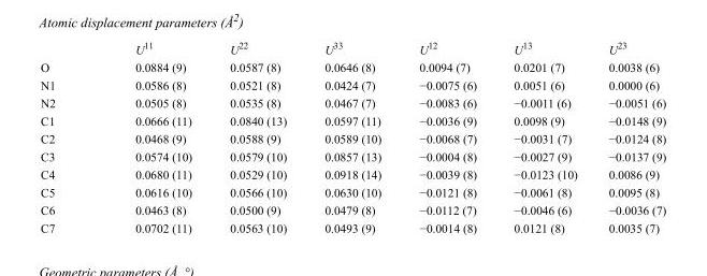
<table><thead><tr><td></td><td>U<sup>11</sup></td><td>U<sup>22</sup></td><td>U<sup>33</sup></td><td>U<sup>12</sup></td><td>U<sup>13</sup></td><td>U<sup>23</sup></td></tr></thead><tbody><tr><td>O</td><td>0.0884 (9)</td><td>0.0587 (8)</td><td>0.0646 (8)</td><td>0.0094 (7)</td><td>0.0201 (7)</td><td>0.0038 (6)</td></tr><tr><td>N1</td><td>0.0586 (8)</td><td>0.0521 (8)</td><td>0.0424 (7)</td><td>−0.0075 (6)</td><td>0.0051 (6)</td><td>0.0000 (6)</td></tr><tr><td>N2</td><td>0.0505 (8)</td><td>0.0535 (8)</td><td>0.0467 (7)</td><td>−0.0083 (6)</td><td>−0.0011 (6)</td><td>−0.0051 (6)</td></tr><tr><td>C1</td><td>0.0666 (11)</td><td>0.0840 (13)</td><td>0.0597 (11)</td><td>−0.0036 (9)</td><td>0.0098 (9)</td><td>−0.0148 (9)</td></tr><tr><td>C2</td><td>0.0468 (9)</td><td>0.0588 (9)</td><td>0.0589 (10)</td><td>−0.0068 (7)</td><td>−0.0031 (7)</td><td>−0.0124 (8)</td></tr><tr><td>C3</td><td>0.0574 (10)</td><td>0.0579 (10)</td><td>0.0857 (13)</td><td>−0.0004 (8)</td><td>−0.0027 (9)</td><td>−0.0137 (9)</td></tr><tr><td>C4</td><td>0.0680 (11)</td><td>0.0529 (10)</td><td>0.0918 (14)</td><td>−0.0039 (8)</td><td>−0.0123 (10)</td><td>0.0086 (9)</td></tr><tr><td>C5</td><td>0.0616 (10)</td><td>0.0566 (10)</td><td>0.0630 (10)</td><td>−0.0121 (8)</td><td>−0.0061 (8)</td><td>0.0095 (8)</td></tr><tr><td>C6</td><td>0.0463 (8)</td><td>0.0500 (9)</td><td>0.0479 (8)</td><td>−0.0112 (7)</td><td>−0.0046 (6)</td><td>−0.0036 (7)</td></tr><tr><td>C7</td><td>0.0702 (11)</td><td>0.0563 (10)</td><td>0.0493 (9)</td><td>−0.0014 (8)</td><td>0.0121 (8)</td><td>0.0035 (7)</td></tr></tbody></table>